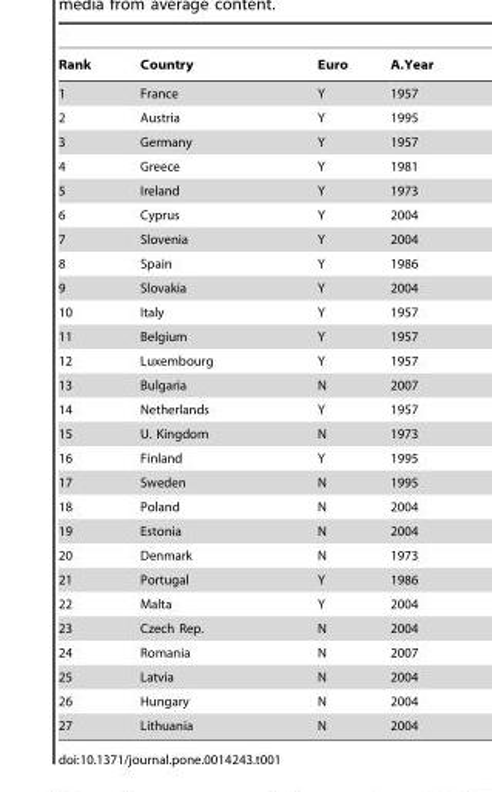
<table><thead><tr><td>Rank</td><td>Country</td><td>Euro</td><td>A.Year</td></tr></thead><tbody><tr><td>1</td><td>France</td><td>Y</td><td>1957</td></tr><tr><td>2</td><td>Austria</td><td>Y</td><td>1995</td></tr><tr><td>3</td><td>Germany</td><td>Y</td><td>1957</td></tr><tr><td>4</td><td>Greece</td><td>Y</td><td>1981</td></tr><tr><td>5</td><td>Ireland</td><td>Y</td><td>1973</td></tr><tr><td>6</td><td>Cyprus</td><td>Y</td><td>2004</td></tr><tr><td>7</td><td>Slovenia</td><td>Y</td><td>2004</td></tr><tr><td>8</td><td>Spain</td><td>Y</td><td>1986</td></tr><tr><td>9</td><td>Slovakia</td><td>Y</td><td>2004</td></tr><tr><td>10</td><td>Italy</td><td>Y</td><td>1957</td></tr><tr><td>11</td><td>Belgium</td><td>Y</td><td>1957</td></tr><tr><td>12</td><td>Luxembourg</td><td>Y</td><td>1957</td></tr><tr><td>13</td><td>Bulgaria</td><td>N</td><td>2007</td></tr><tr><td>14</td><td>Netherlands</td><td>Y</td><td>1957</td></tr><tr><td>15</td><td>U. Kingdom</td><td>N</td><td>1973</td></tr><tr><td>16</td><td>Finland</td><td>Y</td><td>1995</td></tr><tr><td>17</td><td>Sweden</td><td>N</td><td>1995</td></tr><tr><td>18</td><td>Poland</td><td>N</td><td>2004</td></tr><tr><td>19</td><td>Estonia</td><td>N</td><td>2004</td></tr><tr><td>20</td><td>Denmark</td><td>N</td><td>1973</td></tr><tr><td>21</td><td>Portugal</td><td>Y</td><td>1986</td></tr><tr><td>22</td><td>Malta</td><td>Y</td><td>2004</td></tr><tr><td>23</td><td>Czech Rep.</td><td>N</td><td>2004</td></tr><tr><td>24</td><td>Romania</td><td>N</td><td>2007</td></tr><tr><td>25</td><td>Latvia</td><td>N</td><td>2004</td></tr><tr><td>26</td><td>Hungary</td><td>N</td><td>2004</td></tr><tr><td>27</td><td>Lithuania</td><td>N</td><td>2004</td></tr></tbody></table>